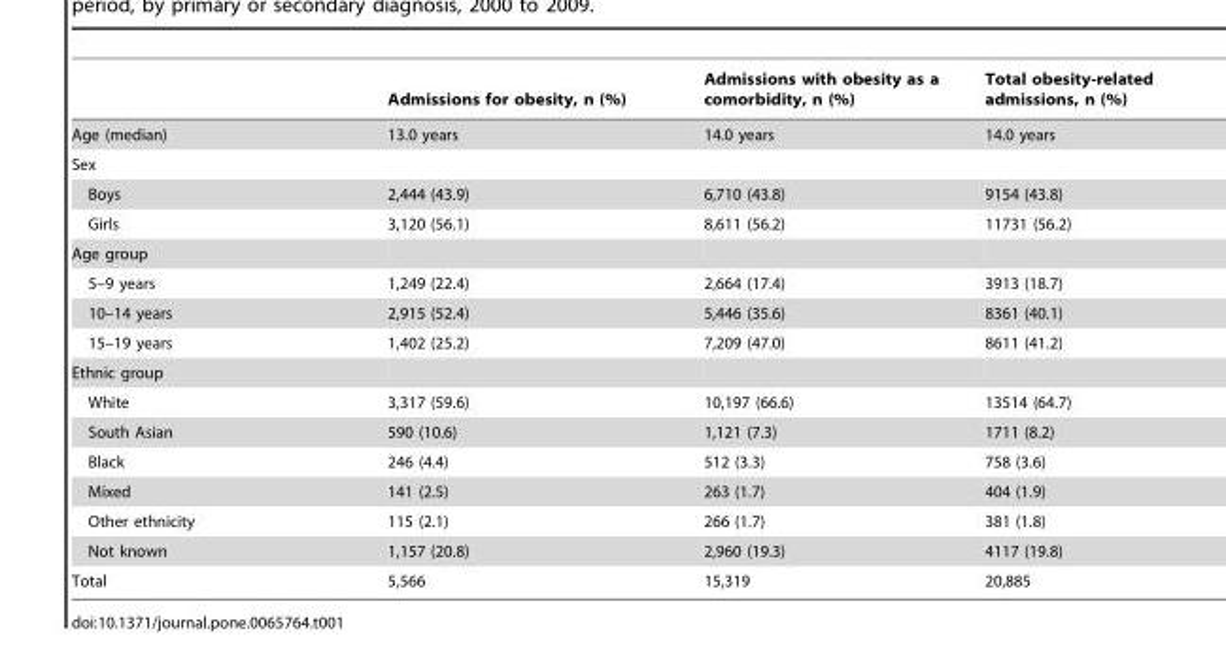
<table><thead><tr><td></td><td>Admissions for obesity, n (%)</td><td>Admissions with obesity as a comorbidity, n (%)</td><td>Total obesity-related admissions, n (%)</td></tr></thead><tbody><tr><td>Age (median)</td><td>13.0 years</td><td>14.0 years</td><td>14.0 years</td></tr><tr><td colspan="4">Sex</td></tr><tr><td>Boys</td><td>2,444 (43.9)</td><td>6,710 (43.8)</td><td>9154 (43.8)</td></tr><tr><td>Girls</td><td>3,120 (56.1)</td><td>8,611 (56.2)</td><td>11731 (56.2)</td></tr><tr><td colspan="4">Age group</td></tr><tr><td>5–9 years</td><td>1,249 (22.4)</td><td>2,664 (17.4)</td><td>3913 (18.7)</td></tr><tr><td>10–14 years</td><td>2,915 (52.4)</td><td>5,446 (35.6)</td><td>8361 (40.1)</td></tr><tr><td>15–19 years</td><td>1,402 (25.2)</td><td>7,209 (47.0)</td><td>8611 (41.2)</td></tr><tr><td colspan="4">Ethnic group</td></tr><tr><td>White</td><td>3,317 (59.6)</td><td>10,197 (66.6)</td><td>13514 (64.7)</td></tr><tr><td>South Asian</td><td>590 (10.6)</td><td>1,121 (7.3)</td><td>1711 (8.2)</td></tr><tr><td>Black</td><td>246 (4.4)</td><td>512 (3.3)</td><td>758 (3.6)</td></tr><tr><td>Mixed</td><td>141 (2.5)</td><td>263 (1.7)</td><td>404 (1.9)</td></tr><tr><td>Other ethnicity</td><td>115 (2.1)</td><td>266 (1.7)</td><td>381 (1.8)</td></tr><tr><td>Not known</td><td>1,157 (20.8)</td><td>2,960 (19.3)</td><td>4117 (19.8)</td></tr><tr><td>Total</td><td>5,566</td><td>15,319</td><td>20,885</td></tr></tbody></table>